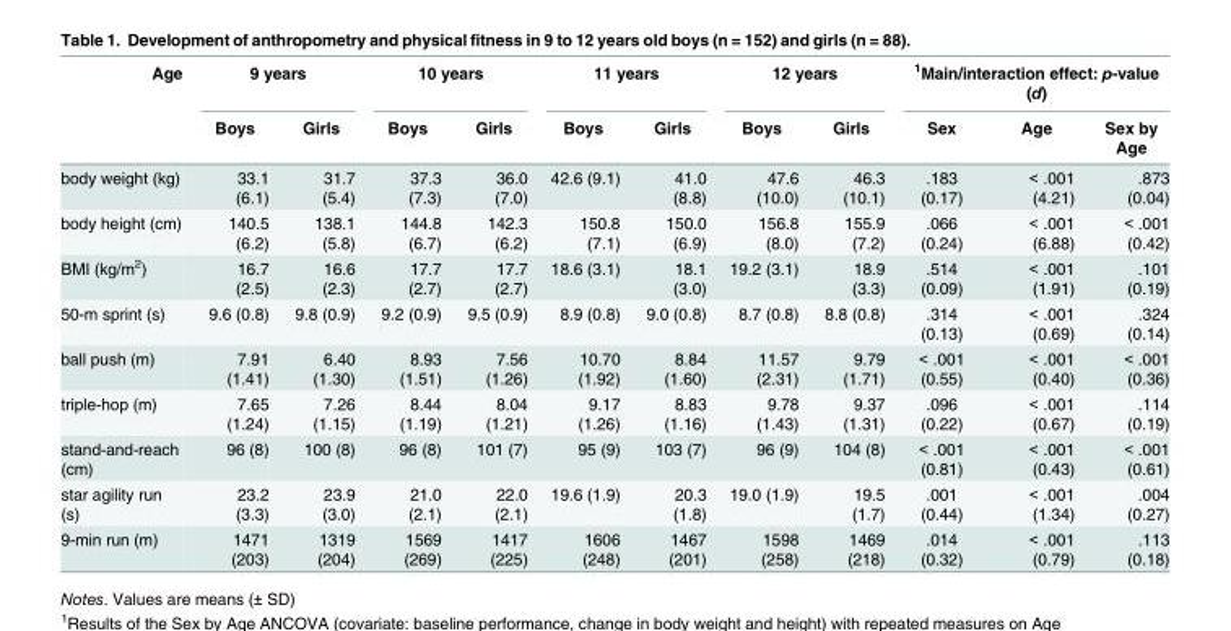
<table><thead><tr><td rowspan="2">Age</td><td colspan="2">9 years</td><td colspan="2">10 years</td><td colspan="2">11 years</td><td colspan="2">12 years</td><td colspan="3"><sup>1</sup>Main/interaction effect: p-value (d)</td></tr><tr><td>Boys</td><td>Girls</td><td>Boys</td><td>Girls</td><td>Boys</td><td>Girls</td><td>Boys</td><td>Girls</td><td>Sex</td><td>Age</td><td>Sex by Age</td></tr></thead><tbody><tr><td>body weight (kg)</td><td>33.1 (6.1)</td><td>31.7 (5.4)</td><td>37.3 (7.3)</td><td>36.0 (7.0)</td><td>42.6 (9.1)</td><td>41.0 (8.8)</td><td>47.6 (10.0)</td><td>46.3 (10.1)</td><td>.183 (0.17)</td><td>&lt; .001 (4.21)</td><td>.873 (0.04)</td></tr><tr><td>body height (cm)</td><td>140.5 (6.2)</td><td>138.1 (5.8)</td><td>144.8 (6.7)</td><td>142.3 (6.2)</td><td>150.8 (7.1)</td><td>150.0 (6.9)</td><td>156.8 (8.0)</td><td>155.9 (7.2)</td><td>.066 (0.24)</td><td>&lt; .001 (6.88)</td><td>&lt; .001 (0.42)</td></tr><tr><td>BMI (kg/m<sup>2</sup>)</td><td>16.7 (2.5)</td><td>16.6 (2.3)</td><td>17.7 (2.7)</td><td>17.7 (2.7)</td><td>18.6 (3.1)</td><td>18.1 (3.0)</td><td>19.2 (3.1)</td><td>18.9 (3.3)</td><td>.514 (0.09)</td><td>&lt; .001 (1.91)</td><td>.101 (0.19)</td></tr><tr><td>50-m sprint (s)</td><td>9.6 (0.8)</td><td>9.8 (0.9)</td><td>9.2 (0.9)</td><td>9.5 (0.9)</td><td>8.9 (0.8)</td><td>9.0 (0.8)</td><td>8.7 (0.8)</td><td>8.8 (0.8)</td><td>.314 (0.13)</td><td>&lt; .001 (0.69)</td><td>.324 (0.14)</td></tr><tr><td>ball push (m)</td><td>7.91 (1.41)</td><td>6.40 (1.30)</td><td>8.93 (1.51)</td><td>7.56 (1.26)</td><td>10.70 (1.92)</td><td>8.84 (1.60)</td><td>11.57 (2.31)</td><td>9.79 (1.71)</td><td>&lt; .001 (0.55)</td><td>&lt; .001 (0.40)</td><td>&lt; .001 (0.36)</td></tr><tr><td>triple-hop (m)</td><td>7.65 (1.24)</td><td>7.26 (1.15)</td><td>8.44 (1.19)</td><td>8.04 (1.21)</td><td>9.17 (1.26)</td><td>8.83 (1.16)</td><td>9.78 (1.43)</td><td>9.37 (1.31)</td><td>.096 (0.22)</td><td>&lt; .001 (0.67)</td><td>.114 (0.19)</td></tr><tr><td>stand-and-reach (cm)</td><td>96 (8)</td><td>100 (8)</td><td>96 (8)</td><td>101 (7)</td><td>95 (9)</td><td>103 (7)</td><td>96 (9)</td><td>104 (8)</td><td>&lt; .001 (0.81)</td><td>&lt; .001 (0.43)</td><td>&lt; .001 (0.61)</td></tr><tr><td>star agility run (s)</td><td>23.2 (3.3)</td><td>23.9 (3.0)</td><td>21.0 (2.1)</td><td>22.0 (2.1)</td><td>19.6 (1.9)</td><td>20.3 (1.8)</td><td>19.0 (1.9)</td><td>19.5 (1.7)</td><td>.001 (0.44)</td><td>&lt; .001 (1.34)</td><td>.004 (0.27)</td></tr><tr><td>9-min run (m)</td><td>1471 (203)</td><td>1319 (204)</td><td>1569 (269)</td><td>1417 (225)</td><td>1606 (248)</td><td>1467 (201)</td><td>1598 (258)</td><td>1469 (218)</td><td>.014 (0.32)</td><td>&lt; .001 (0.79)</td><td>.113 (0.18)</td></tr></tbody></table>